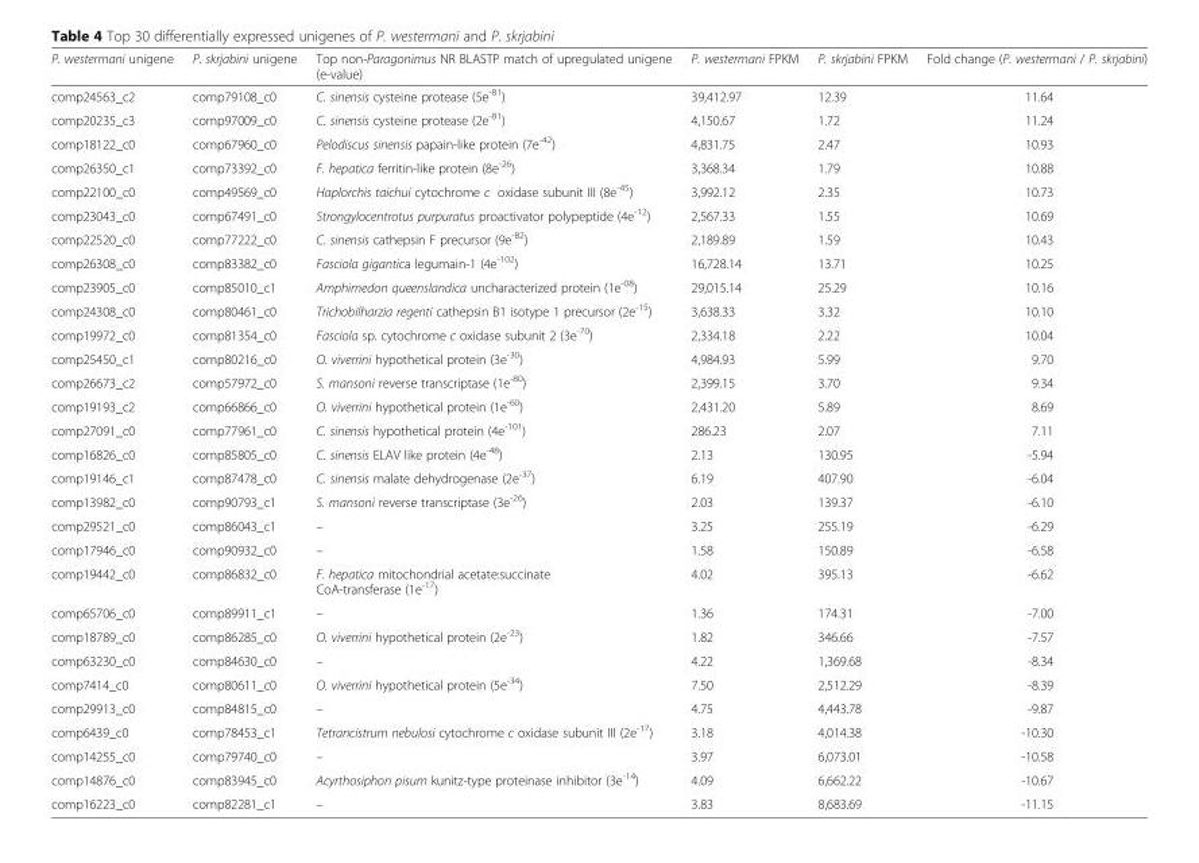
<table><thead><tr><td>P. westermani unigene</td><td>P. skrjabini unigene</td><td>Top non-Paragonimus NR BLASTP match of upregulated unigene (e-value)</td><td>P. westermani FPKM</td><td>P. skrjabini FPKM</td><td>Fold change (P. westermani / P. skrjabini)</td></tr></thead><tbody><tr><td>comp24563_c2</td><td>comp79108_c0</td><td>C. sinensis cysteine protease (5e<sup>-81</sup>)</td><td>39,412.97</td><td>12.39</td><td>11.64</td></tr><tr><td>comp20235_c3</td><td>comp97009_c0</td><td>C. sinensis cysteine protease (2e<sup>-81</sup>)</td><td>4,150.67</td><td>1.72</td><td>11.24</td></tr><tr><td>comp18122_c0</td><td>comp67960_c0</td><td>Pelodiscus sinensis papain-like protein (7e<sup>-42</sup>)</td><td>4,831.75</td><td>2.47</td><td>10.93</td></tr><tr><td>comp26350_c1</td><td>comp73392_c0</td><td>F. hepatica ferritin-like protein (8e<sup>-26</sup>)</td><td>3,368.34</td><td>1.79</td><td>10.88</td></tr><tr><td>comp22100_c0</td><td>comp49569_c0</td><td>Haplorchis taichui cytochrome c oxidase subunit III (8e<sup>-45</sup>)</td><td>3,992.12</td><td>2.35</td><td>10.73</td></tr><tr><td>comp23043_c0</td><td>comp67491_c0</td><td>Strongylocentrotus purpuratus proactivator polypeptide (4e<sup>-12</sup>)</td><td>2,567.33</td><td>1.55</td><td>10.69</td></tr><tr><td>comp22520_c0</td><td>comp77222_c0</td><td>C. sinensis cathepsin F precursor (9e<sup>-82</sup>)</td><td>2,189.89</td><td>1.59</td><td>10.43</td></tr><tr><td>comp26308_c0</td><td>comp83382_c0</td><td>Fasciola gigantica legumain-1 (4e<sup>-102</sup>)</td><td>16,728.14</td><td>13.71</td><td>10.25</td></tr><tr><td>comp23905_c0</td><td>comp85010_c1</td><td>Amphimedon queenslandica uncharacterized protein (1e<sup>-08</sup>)</td><td>29,015.14</td><td>25.29</td><td>10.16</td></tr><tr><td>comp24308_c0</td><td>comp80461_c0</td><td>Trichobilharzia regenti cathepsin B1 isotype 1 precursor (2e<sup>-15</sup>)</td><td>3,638.33</td><td>3.32</td><td>10.10</td></tr><tr><td>comp19972_c0</td><td>comp81354_c0</td><td>Fasciola sp. cytochrome c oxidase subunit 2 (3e<sup>-70</sup>)</td><td>2,334.18</td><td>2.22</td><td>10.04</td></tr><tr><td>comp25450_c1</td><td>comp80216_c0</td><td>O. viverrini hypothetical protein (3e<sup>-30</sup>)</td><td>4,984.93</td><td>5.99</td><td>9.70</td></tr><tr><td>comp26673_c2</td><td>comp57972_c0</td><td>S. mansoni reverse transcriptase (1e<sup>-80</sup>)</td><td>2,399.15</td><td>3.70</td><td>9.34</td></tr><tr><td>comp19193_c2</td><td>comp66866_c0</td><td>O. viverrini hypothetical protein (1e<sup>-60</sup>)</td><td>2,431.20</td><td>5.89</td><td>8.69</td></tr><tr><td>comp27091_c0</td><td>comp77961_c0</td><td>C. sinensis hypothetical protein (4e<sup>-101</sup>)</td><td>286.23</td><td>2.07</td><td>7.11</td></tr><tr><td>comp16826_c0</td><td>comp85805_c0</td><td>C. sinensis ELAV like protein (4e<sup>-48</sup>)</td><td>2.13</td><td>130.95</td><td>-5.94</td></tr><tr><td>comp19146_c1</td><td>comp87478_c0</td><td>C. sinensis malate dehydrogenase (2e<sup>-37</sup>)</td><td>6.19</td><td>407.90</td><td>-6.04</td></tr><tr><td>comp13982_c0</td><td>comp90793_c1</td><td>S. mansoni reverse transcriptase (3e<sup>-26</sup>)</td><td>2.03</td><td>139.37</td><td>-6.10</td></tr><tr><td>comp29521_c0</td><td>comp86043_c1</td><td>–</td><td>3.25</td><td>255.19</td><td>-6.29</td></tr><tr><td>comp17946_c0</td><td>comp90932_c0</td><td>–</td><td>1.58</td><td>150.89</td><td>-6.58</td></tr><tr><td>comp19442_c0</td><td>comp86832_c0</td><td>F. hepatica mitochondrial acetate:succinate CoA-transferase (1e<sup>-17</sup>)</td><td>4.02</td><td>395.13</td><td>-6.62</td></tr><tr><td>comp65706_c0</td><td>comp89911_c1</td><td>–</td><td>1.36</td><td>174.31</td><td>-7.00</td></tr><tr><td>comp18789_c0</td><td>comp86285_c0</td><td>O. viverrini hypothetical protein (2e<sup>-23</sup>)</td><td>1.82</td><td>346.66</td><td>-7.57</td></tr><tr><td>comp63230_c0</td><td>comp84630_c0</td><td>–</td><td>4.22</td><td>1,369.68</td><td>-8.34</td></tr><tr><td>comp7414_c0</td><td>comp80611_c0</td><td>O. viverrini hypothetical protein (5e<sup>-34</sup>)</td><td>7.50</td><td>2,512.29</td><td>-8.39</td></tr><tr><td>comp29913_c0</td><td>comp84815_c0</td><td>–</td><td>4.75</td><td>4,443.78</td><td>-9.87</td></tr><tr><td>comp6439_c0</td><td>comp78453_c1</td><td>Tetrancistrum nebulosi cytochrome c oxidase subunit III (2e<sup>-17</sup>)</td><td>3.18</td><td>4,014.38</td><td>-10.30</td></tr><tr><td>comp14255_c0</td><td>comp79740_c0</td><td>–</td><td>3.97</td><td>6,073.01</td><td>-10.58</td></tr><tr><td>comp14876_c0</td><td>comp83945_c0</td><td>Acyrthosiphon pisum kunitz-type proteinase inhibitor (3e<sup>-14</sup>)</td><td>4.09</td><td>6,662.22</td><td>-10.67</td></tr><tr><td>comp16223_c0</td><td>comp82281_c1</td><td>–</td><td>3.83</td><td>8,683.69</td><td>-11.15</td></tr></tbody></table>